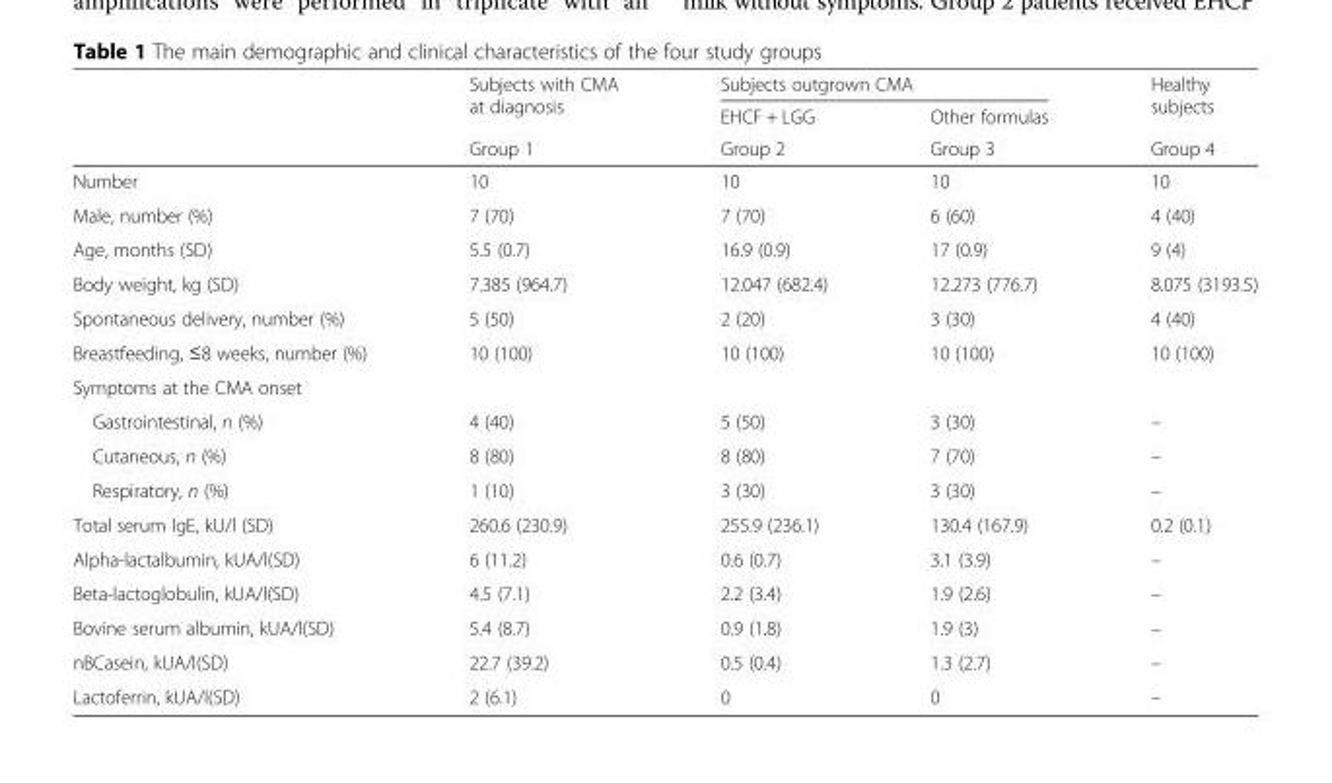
<table><thead><tr><td rowspan="3"></td><td rowspan="3">Subjects with CMA at diagnosis Group 1</td><td colspan="2">Subjects outgrown CMA</td><td rowspan="3">Healthy subjects Group 4</td></tr><tr><td rowspan="2">EHCF + LGG Group 2</td><td rowspan="2">Other formulas Group 3</td></tr><tr></tr></thead><tbody><tr><td>Number</td><td>10</td><td>10</td><td>10</td><td>10</td></tr><tr><td>Male, number (%)</td><td>7 (70)</td><td>7 (70)</td><td>6 (60)</td><td>4 (40)</td></tr><tr><td>Age, months (SD)</td><td>5.5 (0.7)</td><td>16.9 (0.9)</td><td>17 (0.9)</td><td>9 (4)</td></tr><tr><td>Body weight, kg (SD)</td><td>7.385 (964.7)</td><td>12.047 (682.4)</td><td>12.273 (776.7)</td><td>8.075 (3193.5)</td></tr><tr><td>Spontaneous delivery, number (%)</td><td>5 (50)</td><td>2 (20)</td><td>3 (30)</td><td>4 (40)</td></tr><tr><td>Breastfeeding, ≤8 weeks, number (%)</td><td>10 (100)</td><td>10 (100)</td><td>10 (100)</td><td>10 (100)</td></tr><tr><td colspan="5">Symptoms at the CMA onset</td></tr><tr><td>Gastrointestinal, n (%)</td><td>4 (40)</td><td>5 (50)</td><td>3 (30)</td><td>–</td></tr><tr><td>Cutaneous, n (%)</td><td>8 (80)</td><td>8 (80)</td><td>7 (70)</td><td>–</td></tr><tr><td>Respiratory, n (%)</td><td>1 (10)</td><td>3 (30)</td><td>3 (30)</td><td>–</td></tr><tr><td>Total serum IgE, kU/l (SD)</td><td>260.6 (230.9)</td><td>255.9 (236.1)</td><td>130.4 (167.9)</td><td>0.2 (0.1)</td></tr><tr><td>Alpha-lactalbumin, kUA/l(SD)</td><td>6 (11.2)</td><td>0.6 (0.7)</td><td>3.1 (3.9)</td><td>–</td></tr><tr><td>Beta-lactoglobulin, kUA/l(SD)</td><td>4.5 (7.1)</td><td>2.2 (3.4)</td><td>1.9 (2.6)</td><td>–</td></tr><tr><td>Bovine serum albumin, kUA/l(SD)</td><td>5.4 (8.7)</td><td>0.9 (1.8)</td><td>1.9 (3)</td><td>–</td></tr><tr><td>nBCasein, kUA/l(SD)</td><td>22.7 (39.2)</td><td>0.5 (0.4)</td><td>1.3 (2.7)</td><td>–</td></tr><tr><td>Lactoferrin, kUA/l(SD)</td><td>2 (6.1)</td><td>0</td><td>0</td><td>–</td></tr></tbody></table>